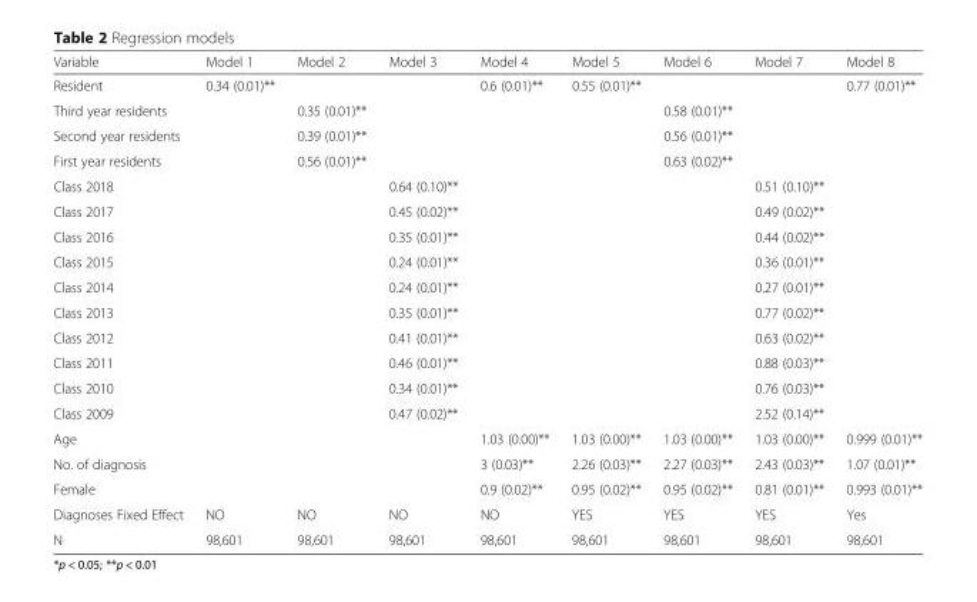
<table><thead><tr><td>Variable</td><td>Model 1</td><td>Model 2</td><td>Model 3</td><td>Model 4</td><td>Model 5</td><td>Model 6</td><td>Model 7</td><td>Model 8</td></tr></thead><tbody><tr><td>Resident</td><td>0.34 (0.01)**</td><td></td><td></td><td>0.6 (0.01)**</td><td>0.55 (0.01)**</td><td></td><td></td><td>0.77 (0.01)**</td></tr><tr><td>Third year residents</td><td></td><td>0.35 (0.01)**</td><td></td><td></td><td></td><td>0.58 (0.01)**</td><td></td><td rowspan="13"></td></tr><tr><td>Second year residents</td><td></td><td>0.39 (0.01)**</td><td></td><td></td><td></td><td>0.56 (0.01)**</td><td></td></tr><tr><td>First year residents</td><td></td><td>0.56 (0.01)**</td><td></td><td></td><td></td><td>0.63 (0.02)**</td><td></td></tr><tr><td>Class 2018</td><td></td><td></td><td>0.64 (0.10)**</td><td></td><td></td><td></td><td>0.51 (0.10)**</td></tr><tr><td>Class 2017</td><td></td><td></td><td>0.45 (0.02)**</td><td></td><td></td><td></td><td>0.49 (0.02)**</td></tr><tr><td>Class 2016</td><td></td><td></td><td>0.35 (0.01)**</td><td></td><td></td><td></td><td>0.44 (0.02)**</td></tr><tr><td>Class 2015</td><td></td><td></td><td>0.24 (0.01)**</td><td></td><td></td><td></td><td>0.36 (0.01)**</td></tr><tr><td>Class 2014</td><td></td><td></td><td>0.24 (0.01)**</td><td></td><td></td><td></td><td>0.27 (0.01)**</td></tr><tr><td>Class 2013</td><td></td><td></td><td>0.35 (0.01)**</td><td></td><td></td><td></td><td>0.77 (0.02)**</td></tr><tr><td>Class 2012</td><td></td><td></td><td>0.41 (0.01)**</td><td></td><td></td><td></td><td>0.63 (0.02)**</td></tr><tr><td>Class 2011</td><td></td><td></td><td>0.46 (0.01)**</td><td></td><td></td><td></td><td>0.88 (0.03)**</td></tr><tr><td>Class 2010</td><td></td><td></td><td>0.34 (0.01)**</td><td></td><td></td><td></td><td>0.76 (0.03)**</td></tr><tr><td>Class 2009</td><td></td><td></td><td>0.47 (0.02)**</td><td></td><td></td><td></td><td>2.52 (0.14)**</td></tr><tr><td>Age</td><td></td><td></td><td></td><td>1.03 (0.00)**</td><td>1.03 (0.00)**</td><td>1.03 (0.00)**</td><td>1.03 (0.00)**</td><td>0.999 (0.01)**</td></tr><tr><td>No. of diagnosis</td><td></td><td></td><td></td><td>3 (0.03)**</td><td>2.26 (0.03)**</td><td>2.27 (0.03)**</td><td>2.43 (0.03)**</td><td>1.07 (0.01)**</td></tr><tr><td>Female</td><td></td><td></td><td></td><td>0.9 (0.02)**</td><td>0.95 (0.02)**</td><td>0.95 (0.02)**</td><td>0.81 (0.01)**</td><td>0.993 (0.01)**</td></tr><tr><td>Diagnoses Fixed Effect</td><td>NO</td><td>NO</td><td>NO</td><td>NO</td><td>YES</td><td>YES</td><td>YES</td><td>Yes</td></tr><tr><td>N</td><td>98,601</td><td>98,601</td><td>98,601</td><td>98,601</td><td>98,601</td><td>98,601</td><td>98,601</td><td>98,601</td></tr></tbody></table>